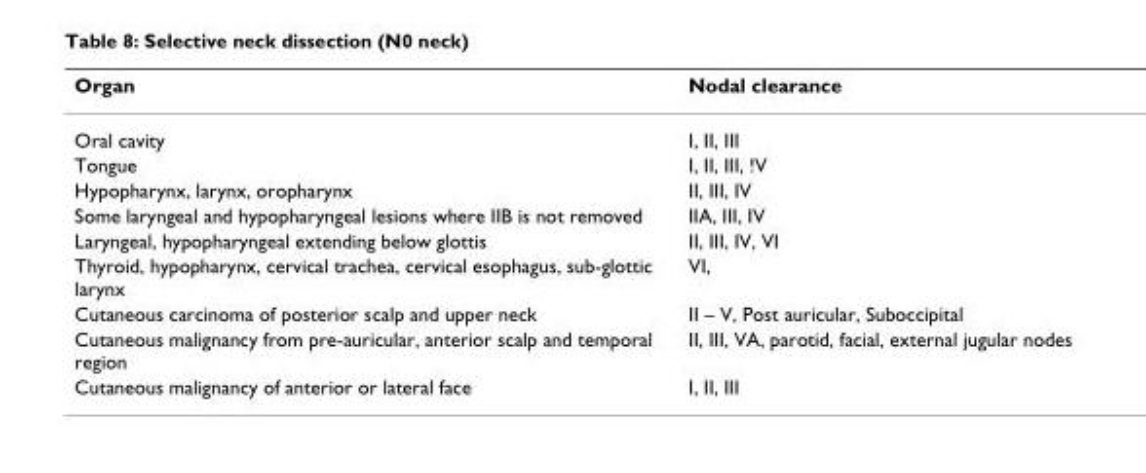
<table><thead><tr><td>Organ</td><td>Nodal clearance</td></tr></thead><tbody><tr><td>Oral cavity</td><td>I, II, III</td></tr><tr><td>Tongue</td><td>I, II, III, !V</td></tr><tr><td>Hypopharynx, larynx, oropharynx</td><td>II, III, IV</td></tr><tr><td>Some laryngeal and hypopharyngeal lesions where IIB is not removed</td><td>IIA, III, IV</td></tr><tr><td>Laryngeal, hypopharyngeal extending below glottis</td><td>II, III, IV, VI</td></tr><tr><td>Thyroid, hypopharynx, cervical trachea, cervical esophagus, sub-glottic larynx</td><td>VI,</td></tr><tr><td>Cutaneous carcinoma of posterior scalp and upper neck</td><td>II – V, Post auricular, Suboccipital</td></tr><tr><td>Cutaneous malignancy from pre-auricular, anterior scalp and temporal region</td><td>II, III, VA, parotid, facial, external jugular nodes</td></tr><tr><td>Cutaneous malignancy of anterior or lateral face</td><td>I, II, III</td></tr></tbody></table>